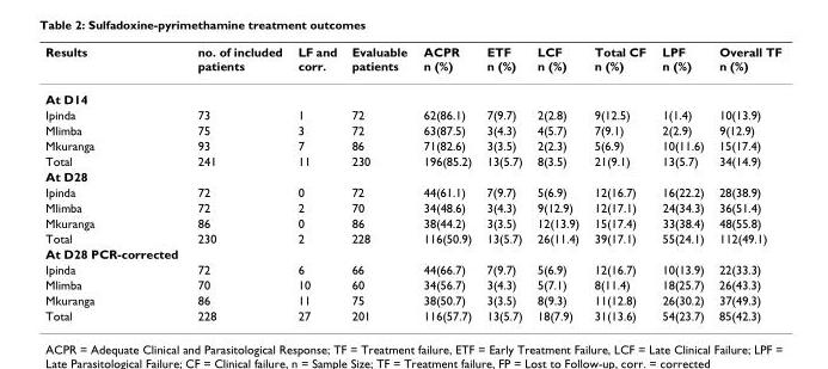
<table><thead><tr><td>Results</td><td>no. of included patients</td><td>LF and corr.</td><td>Evaluable patients</td><td>ACPR n (%)</td><td>ETF n (%)</td><td>LCF n (%)</td><td>Total CF n (%)</td><td>LPF n (%)</td><td>Overall TF n (%)</td></tr></thead><tbody><tr><td colspan="10">At D14</td></tr><tr><td>Ipinda</td><td>73</td><td>1</td><td>72</td><td>62(86.1)</td><td>7(9.7)</td><td>2(2.8)</td><td>9(12.5)</td><td>1(1.4)</td><td>10(13.9)</td></tr><tr><td>Mlimba</td><td>75</td><td>3</td><td>72</td><td>63(87.5)</td><td>3(4.3)</td><td>4(5.7)</td><td>7(9.1)</td><td>2(2.9)</td><td>9(12.9)</td></tr><tr><td>Mkuranga</td><td>93</td><td>7</td><td>86</td><td>71(82.6)</td><td>3(3.5)</td><td>2(2.3)</td><td>5(6.9)</td><td>10(11.6)</td><td>15(17.4)</td></tr><tr><td>Total</td><td>241</td><td>11</td><td>230</td><td>196(85.2)</td><td>13(5.7)</td><td>8(3.5)</td><td>21(9.1)</td><td>13(5.7)</td><td>34(14.9)</td></tr><tr><td colspan="10">At D28</td></tr><tr><td>Ipinda</td><td>72</td><td>0</td><td>72</td><td>44(61.1)</td><td>7(9.7)</td><td>5(6.9)</td><td>12(16.7)</td><td>16(22.2)</td><td>28(38.9)</td></tr><tr><td>Mlimba</td><td>72</td><td>2</td><td>70</td><td>34(48.6)</td><td>3(4.3)</td><td>9(12.9)</td><td>12(17.1)</td><td>24(34.3)</td><td>36(51.4)</td></tr><tr><td>Mkuranga</td><td>86</td><td>0</td><td>86</td><td>38(44.2)</td><td>3(3.5)</td><td>12(13.9)</td><td>15(17.4)</td><td>33(38.4)</td><td>48(55.8)</td></tr><tr><td>Total</td><td>230</td><td>2</td><td>228</td><td>116(50.9)</td><td>13(5.7)</td><td>26(11.4)</td><td>39(17.1)</td><td>55(24.1)</td><td>112(49.1)</td></tr><tr><td colspan="10">At D28 PCR-corrected</td></tr><tr><td>Ipinda</td><td>72</td><td>6</td><td>66</td><td>44(66.7)</td><td>7(9.7)</td><td>5(6.9)</td><td>12(16.7)</td><td>10(13.9)</td><td>22(33.3)</td></tr><tr><td>Mlimba</td><td>70</td><td>10</td><td>60</td><td>34(56.7)</td><td>3(4.3)</td><td>5(7.1)</td><td>8(11.4)</td><td>18(25.7)</td><td>26(43.3)</td></tr><tr><td>Mkuranga</td><td>86</td><td>11</td><td>75</td><td>38(50.7)</td><td>3(3.5)</td><td>8(9.3)</td><td>11(12.8)</td><td>26(30.2)</td><td>37(49.3)</td></tr><tr><td>Total</td><td>228</td><td>27</td><td>201</td><td>116(57.7)</td><td>13(5.7)</td><td>18(7.9)</td><td>31(13.6)</td><td>54(23.7)</td><td>85(42.3)</td></tr></tbody></table>